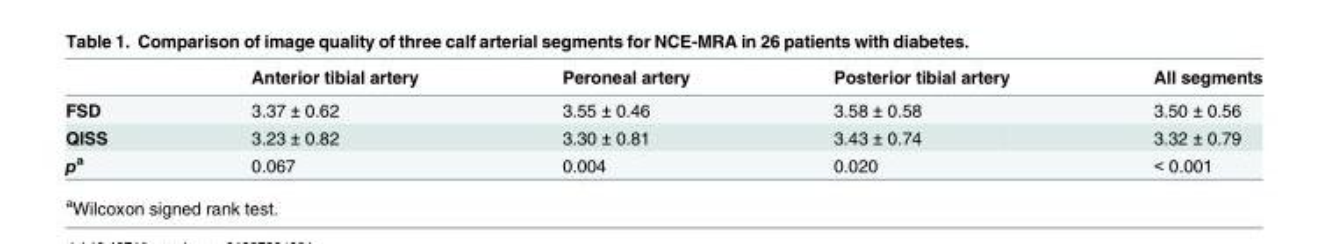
<table><thead><tr><td></td><td>Anterior tibial artery</td><td>Peroneal artery</td><td>Posterior tibial artery</td><td>All segments</td></tr></thead><tbody><tr><td>FSD</td><td>3.37 ± 0.62</td><td>3.55 ± 0.46</td><td>3.58 ± 0.58</td><td>3.50 ± 0.56</td></tr><tr><td>QISS</td><td>3.23 ± 0.82</td><td>3.30 ± 0.81</td><td>3.43 ± 0.74</td><td>3.32 ± 0.79</td></tr><tr><td>p<sup>a</sup></td><td>0.067</td><td>0.004</td><td>0.020</td><td>&lt; 0.001</td></tr></tbody></table>